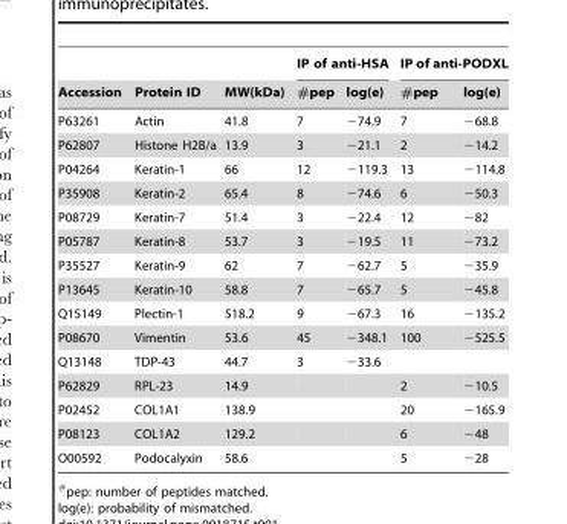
<table><thead><tr><td rowspan="2">Accession</td><td rowspan="2">Protein ID</td><td rowspan="2">MW(kDa)</td><td colspan="2">IP of anti-HSA</td><td colspan="2">IP of anti-PODXL</td></tr><tr><td>#pep</td><td>log(e)</td><td>#pep</td><td>log(e)</td></tr></thead><tbody><tr><td>P63261</td><td>Actin</td><td>41.8</td><td>7</td><td>−74.9</td><td>7</td><td>−68.8</td></tr><tr><td>P62807</td><td>Histone H2B/a</td><td>13.9</td><td>3</td><td>−21.1</td><td>2</td><td>−14.2</td></tr><tr><td>P04264</td><td>Keratin-1</td><td>66</td><td>12</td><td>−119.3</td><td>13</td><td>−114.8</td></tr><tr><td>P35908</td><td>Keratin-2</td><td>65.4</td><td>8</td><td>−74.6</td><td>6</td><td>−50.3</td></tr><tr><td>P08729</td><td>Keratin-7</td><td>51.4</td><td>3</td><td>−22.4</td><td>12</td><td>−82</td></tr><tr><td>P05787</td><td>Keratin-8</td><td>53.7</td><td>3</td><td>−19.5</td><td>11</td><td>−73.2</td></tr><tr><td>P35527</td><td>Keratin-9</td><td>62</td><td>7</td><td>−62.7</td><td>5</td><td>−35.9</td></tr><tr><td>P13645</td><td>Keratin-10</td><td>58.8</td><td>7</td><td>−65.7</td><td>5</td><td>−45.8</td></tr><tr><td>Q15149</td><td>Plectin-1</td><td>518.2</td><td>9</td><td>−67.3</td><td>16</td><td>−135.2</td></tr><tr><td>P08670</td><td>Vimentin</td><td>53.6</td><td>45</td><td>−348.1</td><td>100</td><td>−525.5</td></tr><tr><td>Q13148</td><td>TDP-43</td><td>44.7</td><td>3</td><td>−33.6</td><td></td><td></td></tr><tr><td>P62829</td><td>RPL-23</td><td>14.9</td><td></td><td></td><td>2</td><td>−10.5</td></tr><tr><td>P02452</td><td>COL1A1</td><td>138.9</td><td></td><td></td><td>20</td><td>−165.9</td></tr><tr><td>P08123</td><td>COL1A2</td><td>129.2</td><td></td><td></td><td>6</td><td>−48</td></tr><tr><td>O00592</td><td>Podocalyxin</td><td>58.6</td><td></td><td></td><td>5</td><td>−28</td></tr></tbody></table>